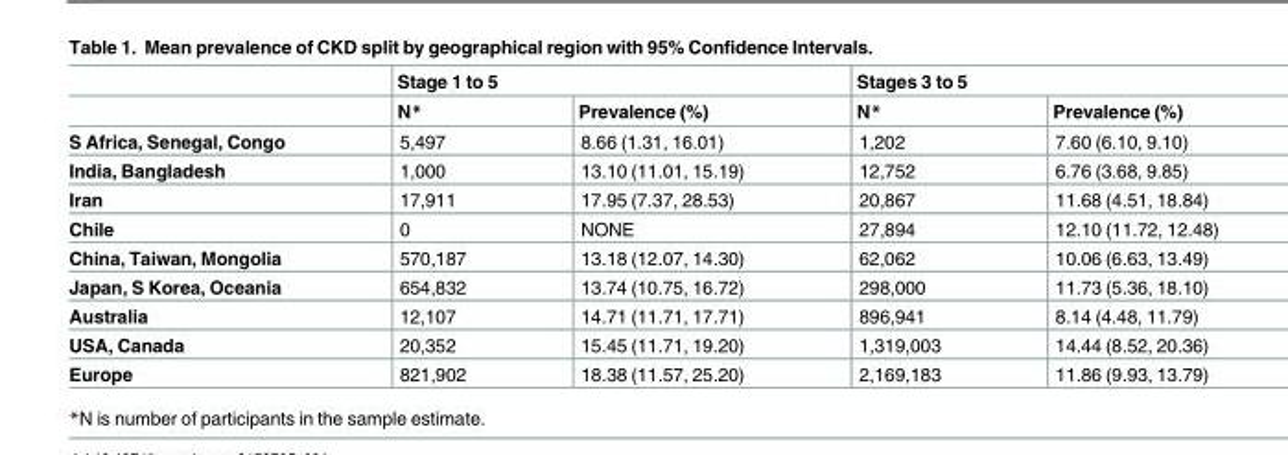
<table><thead><tr><td rowspan="2"></td><td colspan="2">Stage 1 to 5</td><td colspan="2">Stages 3 to 5</td></tr><tr><td>N*</td><td>Prevalence (%)</td><td>N*</td><td>Prevalence (%)</td></tr></thead><tbody><tr><td>S Africa, Senegal, Congo</td><td>5,497</td><td>8.66 (1.31, 16.01)</td><td>1,202</td><td>7.60 (6.10, 9.10)</td></tr><tr><td>India, Bangladesh</td><td>1,000</td><td>13.10 (11.01, 15.19)</td><td>12,752</td><td>6.76 (3.68, 9.85)</td></tr><tr><td>Iran</td><td>17,911</td><td>17.95 (7.37, 28.53)</td><td>20,867</td><td>11.68 (4.51, 18.84)</td></tr><tr><td>Chile</td><td>0</td><td>NONE</td><td>27,894</td><td>12.10 (11.72, 12.48)</td></tr><tr><td>China, Taiwan, Mongolia</td><td>570,187</td><td>13.18 (12.07, 14.30)</td><td>62,062</td><td>10.06 (6.63, 13.49)</td></tr><tr><td>Japan, S Korea, Oceania</td><td>654,832</td><td>13.74 (10.75, 16.72)</td><td>298,000</td><td>11.73 (5.36, 18.10)</td></tr><tr><td>Australia</td><td>12,107</td><td>14.71 (11.71, 17.71)</td><td>896,941</td><td>8.14 (4.48, 11.79)</td></tr><tr><td>USA, Canada</td><td>20,352</td><td>15.45 (11.71, 19.20)</td><td>1,319,003</td><td>14.44 (8.52, 20.36)</td></tr><tr><td>Europe</td><td>821,902</td><td>18.38 (11.57, 25.20)</td><td>2,169,183</td><td>11.86 (9.93, 13.79)</td></tr></tbody></table>